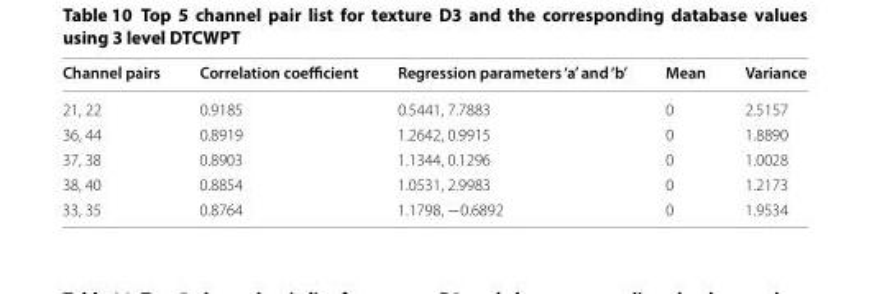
<table><thead><tr><td>Channel pairs</td><td>Correlation coefficient</td><td>Regression parameters ‘a’ and ‘b’</td><td>Mean</td><td>Variance</td></tr></thead><tbody><tr><td>21, 22</td><td>0.9185</td><td>0.5441, 7.7883</td><td>0</td><td>2.5157</td></tr><tr><td>36, 44</td><td>0.8919</td><td>1.2642, 0.9915</td><td>0</td><td>1.8890</td></tr><tr><td>37, 38</td><td>0.8903</td><td>1.1344, 0.1296</td><td>0</td><td>1.0028</td></tr><tr><td>38, 40</td><td>0.8854</td><td>1.0531, 2.9983</td><td>0</td><td>1.2173</td></tr><tr><td>33, 35</td><td>0.8764</td><td>1.1798, −0.6892</td><td>0</td><td>1.9534</td></tr></tbody></table>